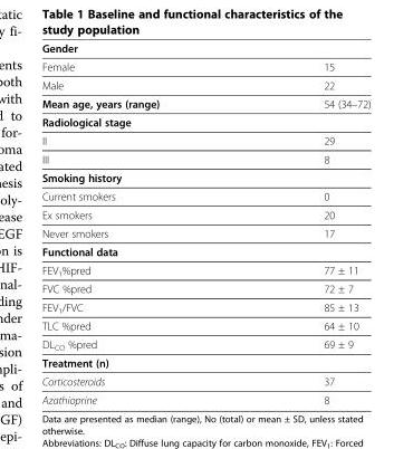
<table><thead><tr><td>Gender</td><td></td></tr></thead><tbody><tr><td>Female</td><td>15</td></tr><tr><td>Male</td><td>22</td></tr><tr><td>Mean age, years (range)</td><td>54 (34–72)</td></tr><tr><td colspan="2">Radiological stage</td></tr><tr><td>II</td><td>29</td></tr><tr><td>III</td><td>8</td></tr><tr><td colspan="2">Smoking history</td></tr><tr><td>Current smokers</td><td>0</td></tr><tr><td>Ex smokers</td><td>20</td></tr><tr><td>Never smokers</td><td>17</td></tr><tr><td colspan="2">Functional data</td></tr><tr><td>FEV<sub>1</sub>%pred</td><td>77 ± 11</td></tr><tr><td>FVC %pred</td><td>72 ± 7</td></tr><tr><td>FEV<sub>1</sub>/FVC</td><td>85 ± 13</td></tr><tr><td>TLC %pred</td><td>64 ± 10</td></tr><tr><td>DL<sub>CO</sub> %pred</td><td>69 ± 9</td></tr><tr><td colspan="2">Treatment (n)</td></tr><tr><td>Corticosteroids</td><td>37</td></tr><tr><td>Azathioprine</td><td>8</td></tr></tbody></table>